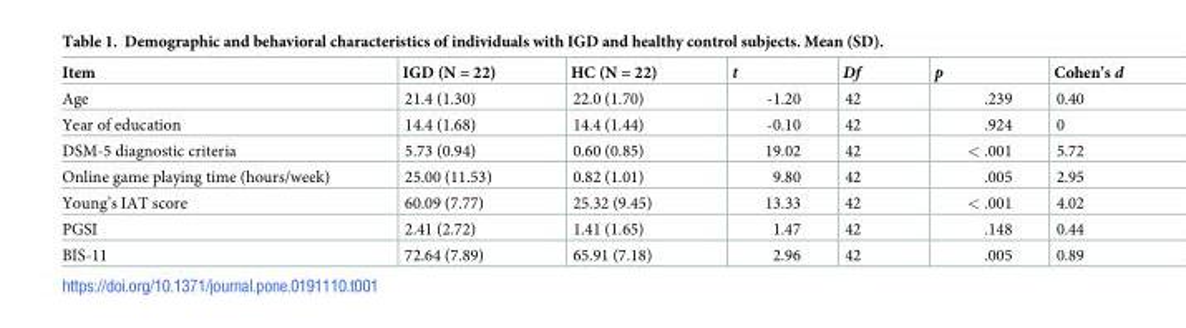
<table><thead><tr><td>Item</td><td>IGD (N = 22)</td><td>HC (N = 22)</td><td>t</td><td>Df</td><td>p</td><td>Cohen’s d</td></tr></thead><tbody><tr><td>Age</td><td>21.4 (1.30)</td><td>22.0 (1.70)</td><td>-1.20</td><td>42</td><td>.239</td><td>0.40</td></tr><tr><td>Year of education</td><td>14.4 (1.68)</td><td>14.4 (1.44)</td><td>-0.10</td><td>42</td><td>.924</td><td>0</td></tr><tr><td>DSM-5 diagnostic criteria</td><td>5.73 (0.94)</td><td>0.60 (0.85)</td><td>19.02</td><td>42</td><td>&lt; .001</td><td>5.72</td></tr><tr><td>Online game playing time (hours/week)</td><td>25.00 (11.53)</td><td>0.82 (1.01)</td><td>9.80</td><td>42</td><td>.005</td><td>2.95</td></tr><tr><td>Young’s IAT score</td><td>60.09 (7.77)</td><td>25.32 (9.45)</td><td>13.33</td><td>42</td><td>&lt; .001</td><td>4.02</td></tr><tr><td>PGSI</td><td>2.41 (2.72)</td><td>1.41 (1.65)</td><td>1.47</td><td>42</td><td>.148</td><td>0.44</td></tr><tr><td>BIS-11</td><td>72.64 (7.89)</td><td>65.91 (7.18)</td><td>2.96</td><td>42</td><td>.005</td><td>0.89</td></tr></tbody></table>